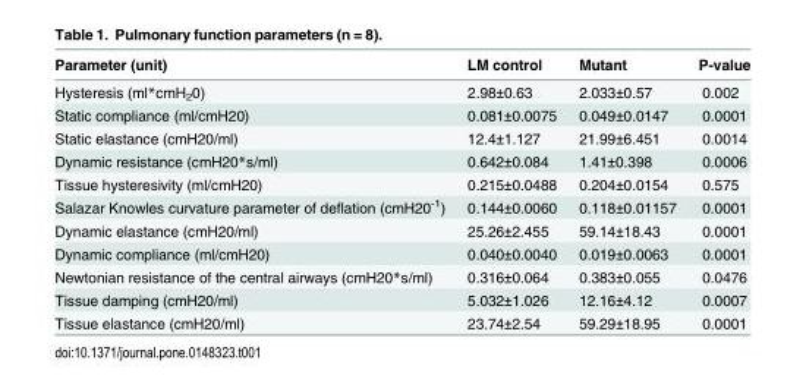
<table><thead><tr><td>Parameter (unit)</td><td>LM control</td><td>Mutant</td><td>P-value</td></tr></thead><tbody><tr><td>Hysteresis (ml*cmH<sub>2</sub>0)</td><td>2.98±0.63</td><td>2.033±0.57</td><td>0.002</td></tr><tr><td>Static compliance (ml/cmH20)</td><td>0.081±0.0075</td><td>0.049±0.0147</td><td>0.0001</td></tr><tr><td>Static elastance (cmH20/ml)</td><td>12.4±1.127</td><td>21.99±6.451</td><td>0.0014</td></tr><tr><td>Dynamic resistance (cmH20*s/ml)</td><td>0.642±0.084</td><td>1.41±0.398</td><td>0.0006</td></tr><tr><td>Tissue hysteresivity (ml/cmH20)</td><td>0.215±0.0488</td><td>0.204±0.0154</td><td>0.575</td></tr><tr><td>Salazar Knowles curvature parameter of deflation (cmH20<sup>-1</sup>)</td><td>0.144±0.0060</td><td>0.118±0.01157</td><td>0.0001</td></tr><tr><td>Dynamic elastance (cmH20/ml)</td><td>25.26±2.455</td><td>59.14±18.43</td><td>0.0001</td></tr><tr><td>Dynamic compliance (ml/cmH20)</td><td>0.040±0.0040</td><td>0.019±0.0063</td><td>0.0001</td></tr><tr><td>Newtonian resistance of the central airways (cmH20*s/ml)</td><td>0.316±0.064</td><td>0.383±0.055</td><td>0.0476</td></tr><tr><td>Tissue damping (cmH20/ml)</td><td>5.032±1.026</td><td>12.16±4.12</td><td>0.0007</td></tr><tr><td>Tissue elastance (cmH20/ml)</td><td>23.74±2.54</td><td>59.29±18.95</td><td>0.0001</td></tr></tbody></table>